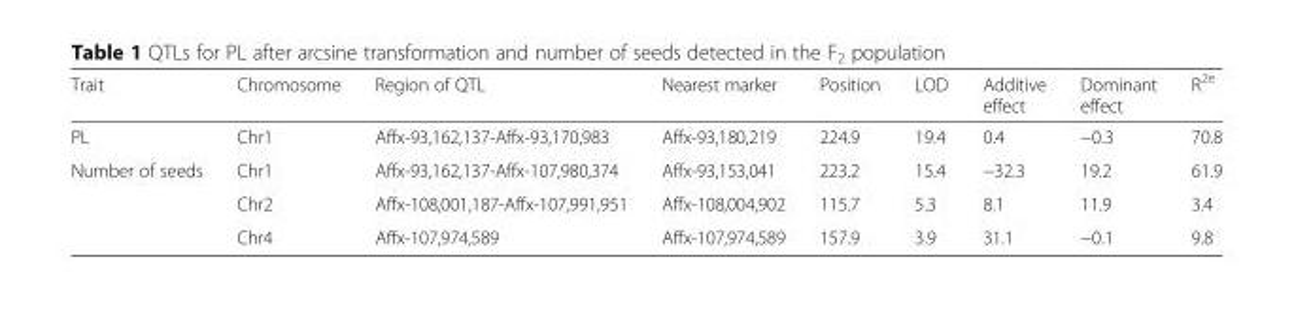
<table><thead><tr><td>Trait</td><td>Chromosome</td><td>Region of QTL</td><td>Nearest marker</td><td>Position</td><td>LOD</td><td>Additive effect</td><td>Dominant effect</td><td>R<sup>2e</sup></td></tr></thead><tbody><tr><td>PL</td><td>Chr1</td><td>Affx-93,162,137-Affx-93,170,983</td><td>Affx-93,180,219</td><td>224.9</td><td>19.4</td><td>0.4</td><td>−0.3</td><td>70.8</td></tr><tr><td rowspan="3">Number of seeds</td><td>Chr1</td><td>Affx-93,162,137-Affx-107,980,374</td><td>Affx-93,153,041</td><td>223.2</td><td>15.4</td><td>−32.3</td><td>19.2</td><td>61.9</td></tr><tr><td>Chr2</td><td>Affx-108,001,187-Affx-107,991,951</td><td>Affx-108,004,902</td><td>115.7</td><td>5.3</td><td>8.1</td><td>11.9</td><td>3.4</td></tr><tr><td>Chr4</td><td>Affx-107,974,589</td><td>Affx-107,974,589</td><td>157.9</td><td>3.9</td><td>31.1</td><td>−0.1</td><td>9.8</td></tr></tbody></table>